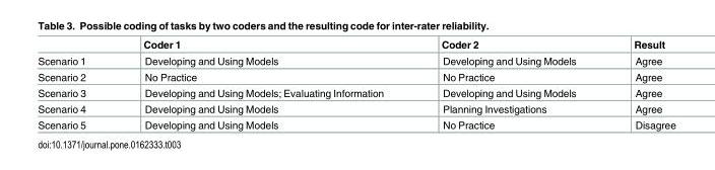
<table><thead><tr><td></td><td>Coder 1</td><td>Coder 2</td><td>Result</td></tr></thead><tbody><tr><td>Scenario 1</td><td>Developing and Using Models</td><td>Developing and Using Models</td><td>Agree</td></tr><tr><td>Scenario 2</td><td>No Practice</td><td>No Practice</td><td>Agree</td></tr><tr><td>Scenario 3</td><td>Developing and Using Models; Evaluating Information</td><td>Developing and Using Models</td><td>Agree</td></tr><tr><td>Scenario 4</td><td>Developing and Using Models</td><td>Planning Investigations</td><td>Agree</td></tr><tr><td>Scenario 5</td><td>Developing and Using Models</td><td>No Practice</td><td>Disagree</td></tr></tbody></table>